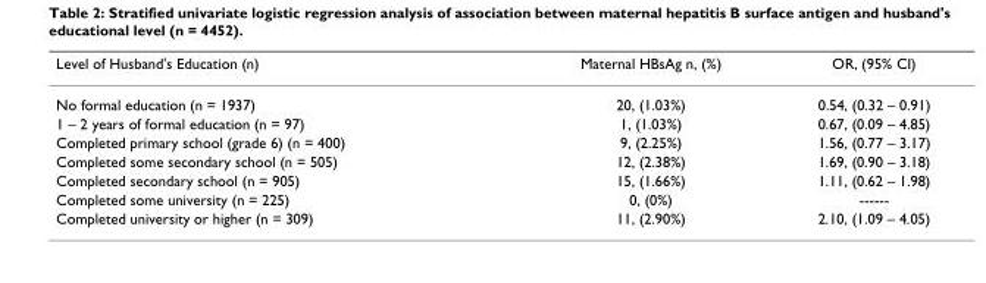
<table><thead><tr><td>Level of Husband&#x27;s Education (n)</td><td>Maternal HBsAg n, (%)</td><td>OR, (95% CI)</td></tr></thead><tbody><tr><td>No formal education (n = 1937)</td><td>20, (1.03%)</td><td>0.54, (0.32 – 0.91)</td></tr><tr><td>1 – 2 years of formal education (n = 97)</td><td>1, (1.03%)</td><td>0.67, (0.09 – 4.85)</td></tr><tr><td>Completed primary school (grade 6) (n = 400)</td><td>9, (2.25%)</td><td>1.56, (0.77 – 3.17)</td></tr><tr><td>Completed some secondary school (n = 505)</td><td>12, (2.38%)</td><td>1.69, (0.90 – 3.18)</td></tr><tr><td>Completed secondary school (n = 905)</td><td>15, (1.66%)</td><td>1.11, (0.62 – 1.98)</td></tr><tr><td>Completed some university (n = 225)</td><td>0, (0%)</td><td>------</td></tr><tr><td>Completed university or higher (n = 309)</td><td>11, (2.90%)</td><td>2.10, (1.09 – 4.05)</td></tr></tbody></table>